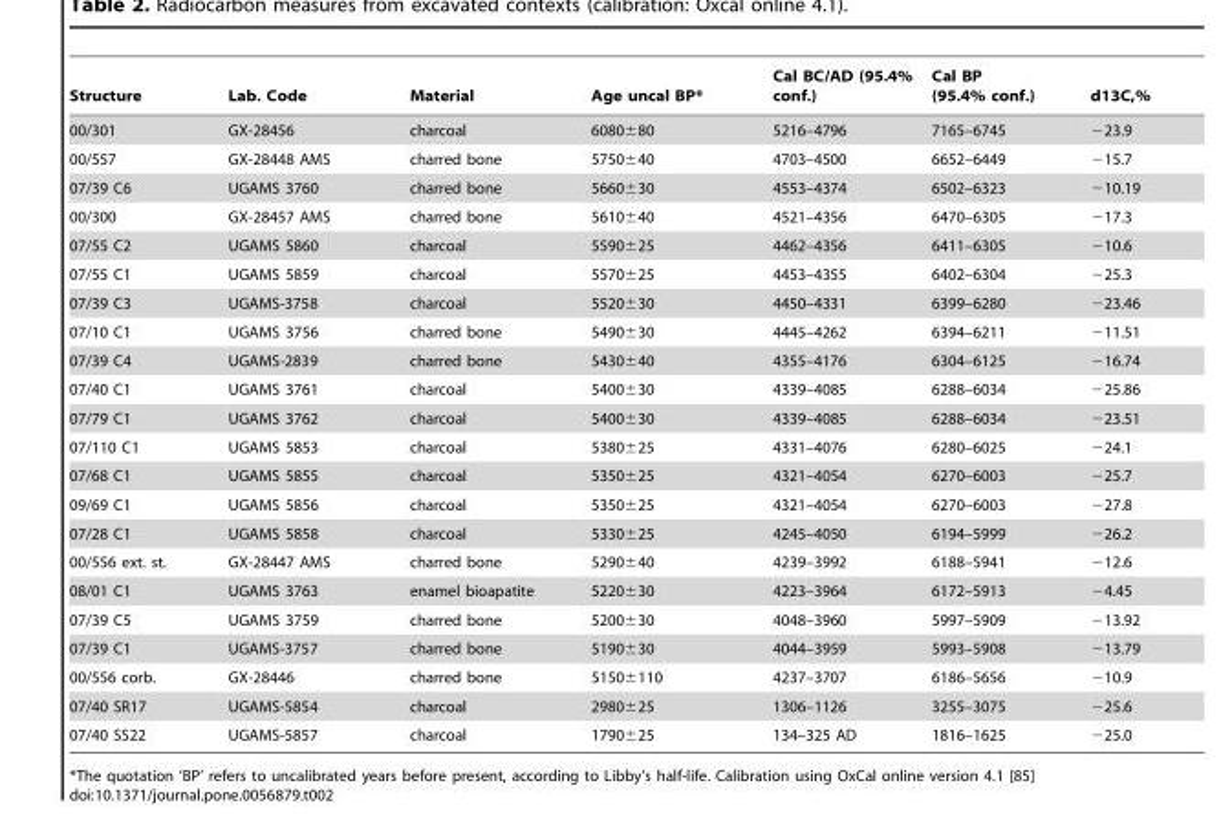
<table><thead><tr><td>Structure</td><td>Lab. Code</td><td>Material</td><td>Age uncal BP*</td><td>Cal BC/AD (95.4% conf.)</td><td>Cal BP (95.4% conf.)</td><td>d13C,%</td></tr></thead><tbody><tr><td>00/301</td><td>GX-28456</td><td>charcoal</td><td>6080±80</td><td>5216–4796</td><td>7165–6745</td><td>−23.9</td></tr><tr><td>00/557</td><td>GX-28448 AMS</td><td>charred bone</td><td>5750±40</td><td>4703–4500</td><td>6652–6449</td><td>−15.7</td></tr><tr><td>07/39 C6</td><td>UGAMS 3760</td><td>charred bone</td><td>5660±30</td><td>4553–4374</td><td>6502–6323</td><td>−10.19</td></tr><tr><td>00/300</td><td>GX-28457 AMS</td><td>charred bone</td><td>5610±40</td><td>4521–4356</td><td>6470–6305</td><td>−17.3</td></tr><tr><td>07/55 C2</td><td>UGAMS 5860</td><td>charcoal</td><td>5590±25</td><td>4462–4356</td><td>6411–6305</td><td>−10.6</td></tr><tr><td>07/55 C1</td><td>UGAMS 5859</td><td>charcoal</td><td>5570±25</td><td>4453–4355</td><td>6402–6304</td><td>−25.3</td></tr><tr><td>07/39 C3</td><td>UGAMS-3758</td><td>charcoal</td><td>5520±30</td><td>4450–4331</td><td>6399–6280</td><td>−23.46</td></tr><tr><td>07/10 C1</td><td>UGAMS 3756</td><td>charred bone</td><td>5490±30</td><td>4445–4262</td><td>6394–6211</td><td>−11.51</td></tr><tr><td>07/39 C4</td><td>UGAMS-2839</td><td>charred bone</td><td>5430±40</td><td>4355–4176</td><td>6304–6125</td><td>−16.74</td></tr><tr><td>07/40 C1</td><td>UGAMS 3761</td><td>charcoal</td><td>5400±30</td><td>4339–4085</td><td>6288–6034</td><td>−25.86</td></tr><tr><td>07/79 C1</td><td>UGAMS 3762</td><td>charcoal</td><td>5400±30</td><td>4339–4085</td><td>6288–6034</td><td>−23.51</td></tr><tr><td>07/110 C1</td><td>UGAMS 5853</td><td>charcoal</td><td>5380±25</td><td>4331–4076</td><td>6280–6025</td><td>−24.1</td></tr><tr><td>07/68 C1</td><td>UGAMS 5855</td><td>charcoal</td><td>5350±25</td><td>4321–4054</td><td>6270–6003</td><td>−25.7</td></tr><tr><td>09/69 C1</td><td>UGAMS 5856</td><td>charcoal</td><td>5350±25</td><td>4321–4054</td><td>6270–6003</td><td>−27.8</td></tr><tr><td>07/28 C1</td><td>UGAMS 5858</td><td>charcoal</td><td>5330±25</td><td>4245–4050</td><td>6194–5999</td><td>−26.2</td></tr><tr><td>00/556 ext. st.</td><td>GX-28447 AMS</td><td>charred bone</td><td>5290±40</td><td>4239–3992</td><td>6188–5941</td><td>−12.6</td></tr><tr><td>08/01 C1</td><td>UGAMS 3763</td><td>enamel bioapatite</td><td>5220±30</td><td>4223–3964</td><td>6172–5913</td><td>−4.45</td></tr><tr><td>07/39 C5</td><td>UGAMS 3759</td><td>charred bone</td><td>5200±30</td><td>4048–3960</td><td>5997–5909</td><td>−13.92</td></tr><tr><td>07/39 C1</td><td>UGAMS-3757</td><td>charred bone</td><td>5190±30</td><td>4044–3959</td><td>5993–5908</td><td>−13.79</td></tr><tr><td>00/556 corb.</td><td>GX-28446</td><td>charred bone</td><td>5150±110</td><td>4237–3707</td><td>6186–5656</td><td>−10.9</td></tr><tr><td>07/40 SR17</td><td>UGAMS-5854</td><td>charcoal</td><td>2980±25</td><td>1306–1126</td><td>3255–3075</td><td>−25.6</td></tr><tr><td>07/40 SS22</td><td>UGAMS-5857</td><td>charcoal</td><td>1790±25</td><td>134–325 AD</td><td>1816–1625</td><td>−25.0</td></tr></tbody></table>